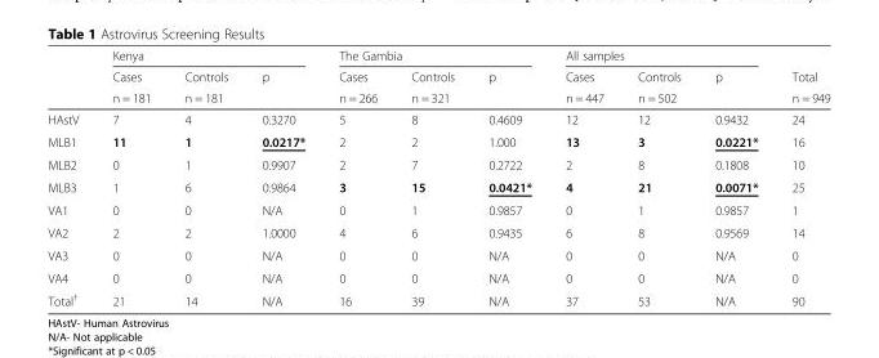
<table><thead><tr><td rowspan="3"></td><td colspan="3">Kenya</td><td colspan="3">The Gambia</td><td colspan="3">All samples</td><td rowspan="3">Total n = 949</td></tr><tr><td rowspan="2">Cases n = 181</td><td rowspan="2">Controls n = 181</td><td rowspan="2">p</td><td rowspan="2">Cases n = 266</td><td rowspan="2">Controls n = 321</td><td rowspan="2">p</td><td rowspan="2">Cases n = 447</td><td rowspan="2">Controls n = 502</td><td rowspan="2">p</td></tr><tr></tr></thead><tbody><tr><td>HAstV</td><td>7</td><td>4</td><td>0.3270</td><td>5</td><td>8</td><td>0.4609</td><td>12</td><td>12</td><td>0.9432</td><td>24</td></tr><tr><td>MLB1</td><td>11</td><td>1</td><td>0.0217*</td><td>2</td><td>2</td><td>1.000</td><td>13</td><td>3</td><td>0.0221*</td><td>16</td></tr><tr><td>MLB2</td><td>0</td><td>1</td><td>0.9907</td><td>2</td><td>7</td><td>0.2722</td><td>2</td><td>8</td><td>0.1808</td><td>10</td></tr><tr><td>MLB3</td><td>1</td><td>6</td><td>0.9864</td><td>3</td><td>15</td><td>0.0421*</td><td>4</td><td>21</td><td>0.0071*</td><td>25</td></tr><tr><td>VA1</td><td>0</td><td>0</td><td>N/A</td><td>0</td><td>1</td><td>0.9857</td><td>0</td><td>1</td><td>0.9857</td><td>1</td></tr><tr><td>VA2</td><td>2</td><td>2</td><td>1.0000</td><td>4</td><td>6</td><td>0.9435</td><td>6</td><td>8</td><td>0.9569</td><td>14</td></tr><tr><td>VA3</td><td>0</td><td>0</td><td>N/A</td><td>0</td><td>0</td><td>N/A</td><td>0</td><td>0</td><td>N/A</td><td>0</td></tr><tr><td>VA4</td><td>0</td><td>0</td><td>N/A</td><td>0</td><td>0</td><td>N/A</td><td>0</td><td>0</td><td>N/A</td><td>0</td></tr><tr><td>Total<sup>†</sup></td><td>21</td><td>14</td><td>N/A</td><td>16</td><td>39</td><td>N/A</td><td>37</td><td>53</td><td>N/A</td><td>90</td></tr></tbody></table>